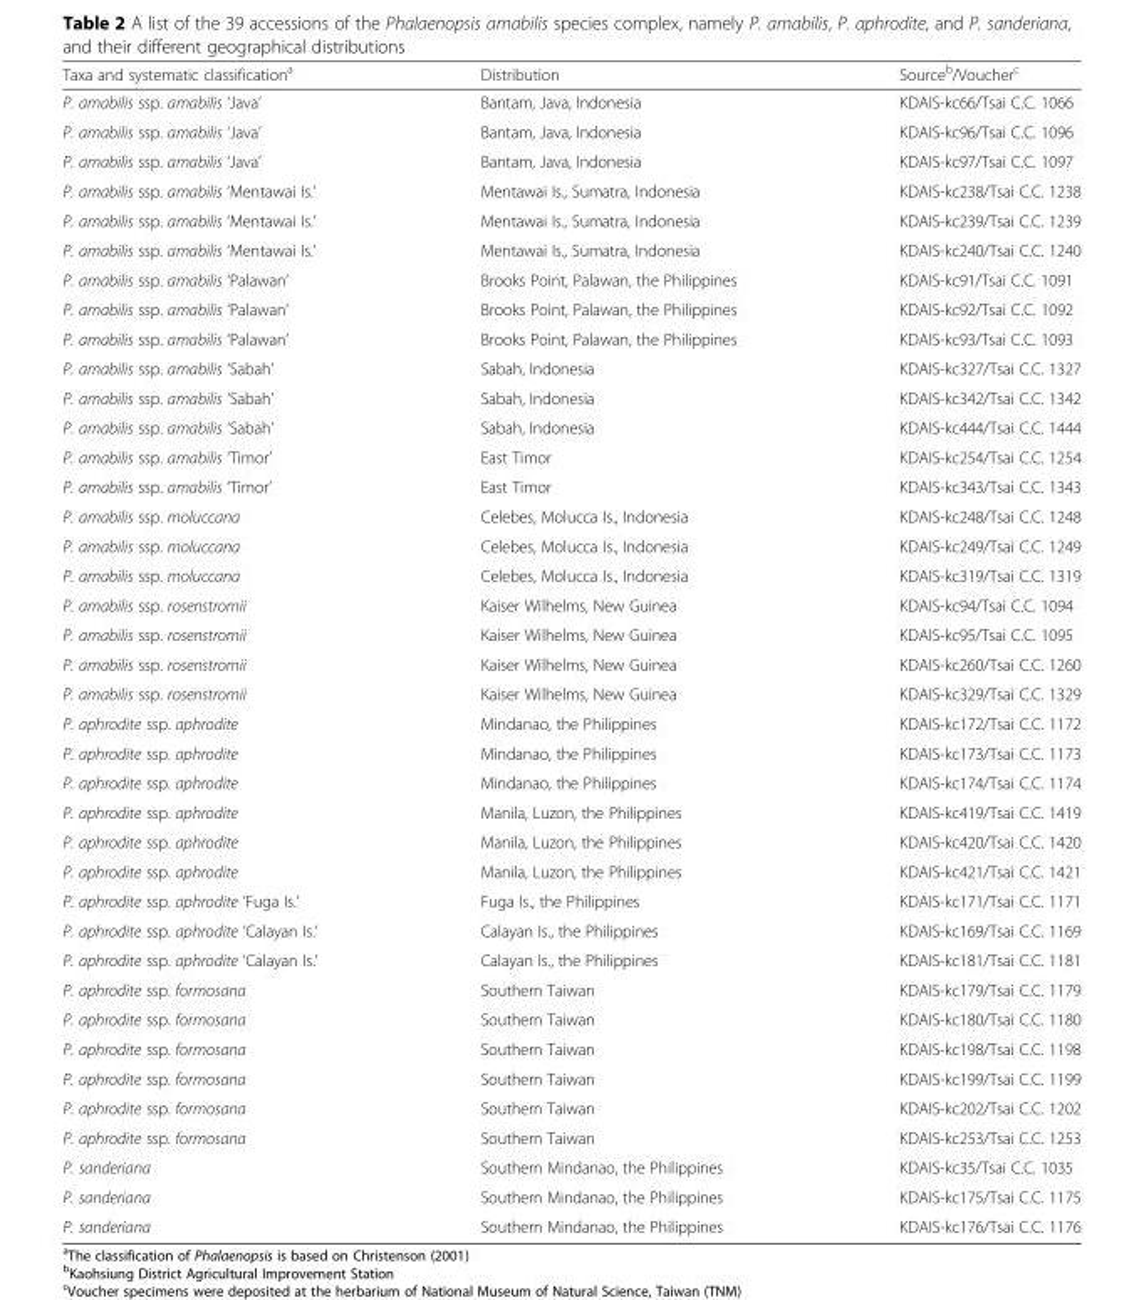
<table><thead><tr><td>Taxa and systematic classification<sup>a</sup></td><td>Distribution</td><td>Source<sup>b</sup>/Voucher<sup>c</sup></td></tr></thead><tbody><tr><td>P. amabilis ssp. amabilis ‘Java’</td><td>Bantam, Java, Indonesia</td><td>KDAIS-kc66/Tsai C.C. 1066</td></tr><tr><td>P. amabilis ssp. amabilis ‘Java’</td><td>Bantam, Java, Indonesia</td><td>KDAIS-kc96/Tsai C.C. 1096</td></tr><tr><td>P. amabilis ssp. amabilis ‘Java’</td><td>Bantam, Java, Indonesia</td><td>KDAIS-kc97/Tsai C.C. 1097</td></tr><tr><td>P. amabilis ssp. amabilis ‘Mentawai Is.’</td><td>Mentawai Is., Sumatra, Indonesia</td><td>KDAIS-kc238/Tsai C.C. 1238</td></tr><tr><td>P. amabilis ssp. amabilis ‘Mentawai Is.’</td><td>Mentawai Is., Sumatra, Indonesia</td><td>KDAIS-kc239/Tsai C.C. 1239</td></tr><tr><td>P. amabilis ssp. amabilis ‘Mentawai Is.’</td><td>Mentawai Is., Sumatra, Indonesia</td><td>KDAIS-kc240/Tsai C.C. 1240</td></tr><tr><td>P. amabilis ssp. amabilis ‘Palawan’</td><td>Brooks Point, Palawan, the Philippines</td><td>KDAIS-kc91/Tsai C.C. 1091</td></tr><tr><td>P. amabilis ssp. amabilis ‘Palawan’</td><td>Brooks Point, Palawan, the Philippines</td><td>KDAIS-kc92/Tsai C.C. 1092</td></tr><tr><td>P. amabilis ssp. amabilis ‘Palawan’</td><td>Brooks Point, Palawan, the Philippines</td><td>KDAIS-kc93/Tsai C.C. 1093</td></tr><tr><td>P. amabilis ssp. amabilis ‘Sabah’</td><td>Sabah, Indonesia</td><td>KDAIS-kc327/Tsai C.C. 1327</td></tr><tr><td>P. amabilis ssp. amabilis ‘Sabah’</td><td>Sabah, Indonesia</td><td>KDAIS-kc342/Tsai C.C. 1342</td></tr><tr><td>P. amabilis ssp. amabilis ‘Sabah’</td><td>Sabah, Indonesia</td><td>KDAIS-kc444/Tsai C.C. 1444</td></tr><tr><td>P. amabilis ssp. amabilis ‘Timor’</td><td>East Timor</td><td>KDAIS-kc254/Tsai C.C. 1254</td></tr><tr><td>P. amabilis ssp. amabilis ‘Timor’</td><td>East Timor</td><td>KDAIS-kc343/Tsai C.C. 1343</td></tr><tr><td>P. amabilis ssp. moluccana</td><td>Celebes, Molucca Is., Indonesia</td><td>KDAIS-kc248/Tsai C.C. 1248</td></tr><tr><td>P. amabilis ssp. moluccana</td><td>Celebes, Molucca Is., Indonesia</td><td>KDAIS-kc249/Tsai C.C. 1249</td></tr><tr><td>P. amabilis ssp. moluccana</td><td>Celebes, Molucca Is., Indonesia</td><td>KDAIS-kc319/Tsai C.C. 1319</td></tr><tr><td>P. amabilis ssp. rosenstromii</td><td>Kaiser Wilhelms, New Guinea</td><td>KDAIS-kc94/Tsai C.C. 1094</td></tr><tr><td>P. amabilis ssp. rosenstromii</td><td>Kaiser Wilhelms, New Guinea</td><td>KDAIS-kc95/Tsai C.C. 1095</td></tr><tr><td>P. amabilis ssp. rosenstromii</td><td>Kaiser Wilhelms, New Guinea</td><td>KDAIS-kc260/Tsai C.C. 1260</td></tr><tr><td>P. amabilis ssp. rosenstromii</td><td>Kaiser Wilhelms, New Guinea</td><td>KDAIS-kc329/Tsai C.C. 1329</td></tr><tr><td>P. aphrodite ssp. aphrodite</td><td>Mindanao, the Philippines</td><td>KDAIS-kc172/Tsai C.C. 1172</td></tr><tr><td>P. aphrodite ssp. aphrodite</td><td>Mindanao, the Philippines</td><td>KDAIS-kc173/Tsai C.C. 1173</td></tr><tr><td>P. aphrodite ssp. aphrodite</td><td>Mindanao, the Philippines</td><td>KDAIS-kc174/Tsai C.C. 1174</td></tr><tr><td>P. aphrodite ssp. aphrodite</td><td>Manila, Luzon, the Philippines</td><td>KDAIS-kc419/Tsai C.C. 1419</td></tr><tr><td>P. aphrodite ssp. aphrodite</td><td>Manila, Luzon, the Philippines</td><td>KDAIS-kc420/Tsai C.C. 1420</td></tr><tr><td>P. aphrodite ssp. aphrodite</td><td>Manila, Luzon, the Philippines</td><td>KDAIS-kc421/Tsai C.C. 1421</td></tr><tr><td>P. aphrodite ssp. aphrodite ‘Fuga Is.’</td><td>Fuga Is., the Philippines</td><td>KDAIS-kc171/Tsai C.C. 1171</td></tr><tr><td>P. aphrodite ssp. aphrodite ‘Calayan Is.’</td><td>Calayan Is., the Philippines</td><td>KDAIS-kc169/Tsai C.C. 1169</td></tr><tr><td>P. aphrodite ssp. aphrodite ‘Calayan Is.’</td><td>Calayan Is., the Philippines</td><td>KDAIS-kc181/Tsai C.C. 1181</td></tr><tr><td>P. aphrodite ssp. formosana</td><td>Southern Taiwan</td><td>KDAIS-kc179/Tsai C.C. 1179</td></tr><tr><td>P. aphrodite ssp. formosana</td><td>Southern Taiwan</td><td>KDAIS-kc180/Tsai C.C. 1180</td></tr><tr><td>P. aphrodite ssp. formosana</td><td>Southern Taiwan</td><td>KDAIS-kc198/Tsai C.C. 1198</td></tr><tr><td>P. aphrodite ssp. formosana</td><td>Southern Taiwan</td><td>KDAIS-kc199/Tsai C.C. 1199</td></tr><tr><td>P. aphrodite ssp. formosana</td><td>Southern Taiwan</td><td>KDAIS-kc202/Tsai C.C. 1202</td></tr><tr><td>P. aphrodite ssp. formosana</td><td>Southern Taiwan</td><td>KDAIS-kc253/Tsai C.C. 1253</td></tr><tr><td>P. sanderiana</td><td>Southern Mindanao, the Philippines</td><td>KDAIS-kc35/Tsai C.C. 1035</td></tr><tr><td>P. sanderiana</td><td>Southern Mindanao, the Philippines</td><td>KDAIS-kc175/Tsai C.C. 1175</td></tr><tr><td>P. sanderiana</td><td>Southern Mindanao, the Philippines</td><td>KDAIS-kc176/Tsai C.C. 1176</td></tr></tbody></table>